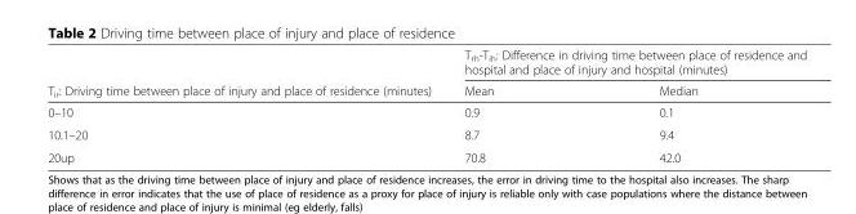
<table><thead><tr><td rowspan="2">T<sub>ir</sub>: Driving time between place of injury and place of residence (minutes)</td><td colspan="2">T<sub>rh</sub>-T<sub>ih</sub>: Difference in driving time between place of residence and hospital and place of injury and hospital (minutes)</td></tr><tr><td>Mean</td><td>Median</td></tr></thead><tbody><tr><td>0–10</td><td>0.9</td><td>0.1</td></tr><tr><td>10.1–20</td><td>8.7</td><td>9.4</td></tr><tr><td>20up</td><td>70.8</td><td>42.0</td></tr></tbody></table>